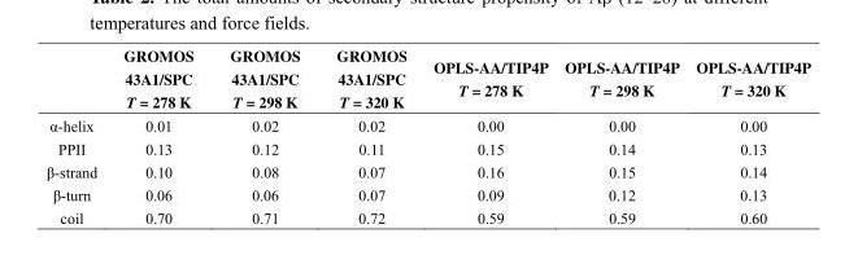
<table><thead><tr><td></td><td>GROMOS 43A1/SPC T = 278 K</td><td>GROMOS 43A1/SPC T = 298 K</td><td>GROMOS 43A1/SPC T = 320 K</td><td>OPLS-AA/TIP4P T = 278 K</td><td>OPLS-AA/TIP4P T = 298 K</td><td>OPLS-AA/TIP4P T = 320 K</td></tr></thead><tbody><tr><td>α-helix</td><td>0.01</td><td>0.02</td><td>0.02</td><td>0.00</td><td>0.00</td><td>0.00</td></tr><tr><td>PPII</td><td>0.13</td><td>0.12</td><td>0.11</td><td>0.15</td><td>0.14</td><td>0.13</td></tr><tr><td>β-strand</td><td>0.10</td><td>0.08</td><td>0.07</td><td>0.16</td><td>0.15</td><td>0.14</td></tr><tr><td>β-turn</td><td>0.06</td><td>0.06</td><td>0.07</td><td>0.09</td><td>0.12</td><td>0.13</td></tr><tr><td>coil</td><td>0.70</td><td>0.71</td><td>0.72</td><td>0.59</td><td>0.59</td><td>0.60</td></tr></tbody></table>